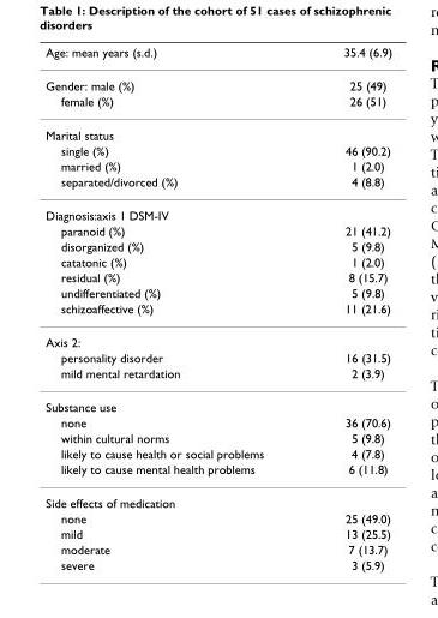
<table><thead><tr><td>Age: mean years (s.d.)</td><td>35.4 (6.9)</td></tr></thead><tbody><tr><td>Gender: male (%)</td><td>25 (49)</td></tr><tr><td>female (%)</td><td>26 (51)</td></tr><tr><td colspan="2">Marital status</td></tr><tr><td>single (%)</td><td>46 (90.2)</td></tr><tr><td>married (%)</td><td>1 (2.0)</td></tr><tr><td>separated/divorced (%)</td><td>4 (8.8)</td></tr><tr><td colspan="2">Diagnosis:axis 1 DSM-IV</td></tr><tr><td>paranoid (%)</td><td>21 (41.2)</td></tr><tr><td>disorganized (%)</td><td>5 (9.8)</td></tr><tr><td>catatonic (%)</td><td>1 (2.0)</td></tr><tr><td>residual (%)</td><td>8 (15.7)</td></tr><tr><td>undifferentiated (%)</td><td>5 (9.8)</td></tr><tr><td>schizoaffective (%)</td><td>11 (21.6)</td></tr><tr><td colspan="2">Axis 2:</td></tr><tr><td>personality disorder</td><td>16 (31.5)</td></tr><tr><td>mild mental retardation</td><td>2 (3.9)</td></tr><tr><td colspan="2">Substance use</td></tr><tr><td>none</td><td>36 (70.6)</td></tr><tr><td>within cultural norms</td><td>5 (9.8)</td></tr><tr><td>likely to cause health or social problems</td><td>4 (7.8)</td></tr><tr><td>likely to cause mental health problems</td><td>6 (11.8)</td></tr><tr><td colspan="2">Side effects of medication</td></tr><tr><td>none</td><td>25 (49.0)</td></tr><tr><td>mild</td><td>13 (25.5)</td></tr><tr><td>moderate</td><td>7 (13.7)</td></tr><tr><td>severe</td><td>3 (5.9)</td></tr></tbody></table>